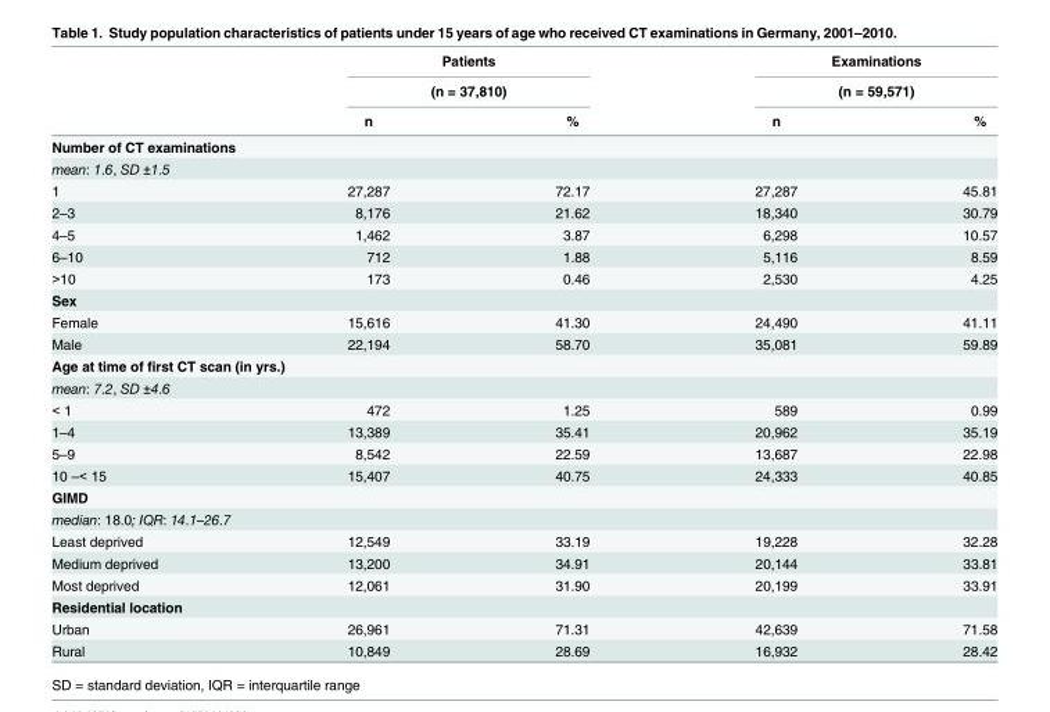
<table><thead><tr><td rowspan="3"></td><td rowspan="2" colspan="2">Patients (n = 37,810)</td><td rowspan="2" colspan="2">Examinations (n = 59,571)</td></tr><tr></tr><tr><td>n</td><td>%</td><td>n</td><td>%</td></tr></thead><tbody><tr><td colspan="5">Number of CT examinations</td></tr><tr><td colspan="5">mean: 1.6, SD ±1.5</td></tr><tr><td>1</td><td>27,287</td><td>72.17</td><td>27,287</td><td>45.81</td></tr><tr><td>2–3</td><td>8,176</td><td>21.62</td><td>18,340</td><td>30.79</td></tr><tr><td>4–5</td><td>1,462</td><td>3.87</td><td>6,298</td><td>10.57</td></tr><tr><td>6–10</td><td>712</td><td>1.88</td><td>5,116</td><td>8.59</td></tr><tr><td>&gt;10</td><td>173</td><td>0.46</td><td>2,530</td><td>4.25</td></tr><tr><td colspan="5">Sex</td></tr><tr><td>Female</td><td>15,616</td><td>41.30</td><td>24,490</td><td>41.11</td></tr><tr><td>Male</td><td>22,194</td><td>58.70</td><td>35,081</td><td>59.89</td></tr><tr><td colspan="5">Age at time of first CT scan (in yrs.)</td></tr><tr><td colspan="5">mean: 7.2, SD ±4.6</td></tr><tr><td>&lt; 1</td><td>472</td><td>1.25</td><td>589</td><td>0.99</td></tr><tr><td>1–4</td><td>13,389</td><td>35.41</td><td>20,962</td><td>35.19</td></tr><tr><td>5–9</td><td>8,542</td><td>22.59</td><td>13,687</td><td>22.98</td></tr><tr><td>10 –&lt; 15</td><td>15,407</td><td>40.75</td><td>24,333</td><td>40.85</td></tr><tr><td colspan="5">GIMD</td></tr><tr><td colspan="5">median: 18.0; IQR: 14.1–26.7</td></tr><tr><td>Least deprived</td><td>12,549</td><td>33.19</td><td>19,228</td><td>32.28</td></tr><tr><td>Medium deprived</td><td>13,200</td><td>34.91</td><td>20,144</td><td>33.81</td></tr><tr><td>Most deprived</td><td>12,061</td><td>31.90</td><td>20,199</td><td>33.91</td></tr><tr><td colspan="5">Residential location</td></tr><tr><td>Urban</td><td>26,961</td><td>71.31</td><td>42,639</td><td>71.58</td></tr><tr><td>Rural</td><td>10,849</td><td>28.69</td><td>16,932</td><td>28.42</td></tr></tbody></table>